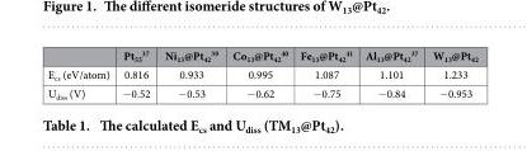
<table><thead><tr><td></td><td>Pt<sub>55</sub> <sup>37</sup></td><td>Ni<sub>13</sub>@Pt<sub>42</sub> <sup>39</sup></td><td>Co<sub>13</sub>@Pt<sub>42</sub> <sup>40</sup></td><td>Fe<sub>13</sub>@Pt<sub>42</sub> <sup>41</sup></td><td>Al<sub>13</sub>@Pt<sub>42</sub> <sup>37</sup></td><td>W<sub>13</sub>@Pt<sub>42</sub></td></tr></thead><tbody><tr><td>E<sub>cs</sub> (eV/atom)</td><td>0.816</td><td>0.933</td><td>0.995</td><td>1.087</td><td>1.101</td><td>1.233</td></tr><tr><td>U<sub>diss</sub> (V)</td><td>− 0.52</td><td>− 0.53</td><td>− 0.62</td><td>− 0.75</td><td>− 0.84</td><td>− 0.953</td></tr></tbody></table>